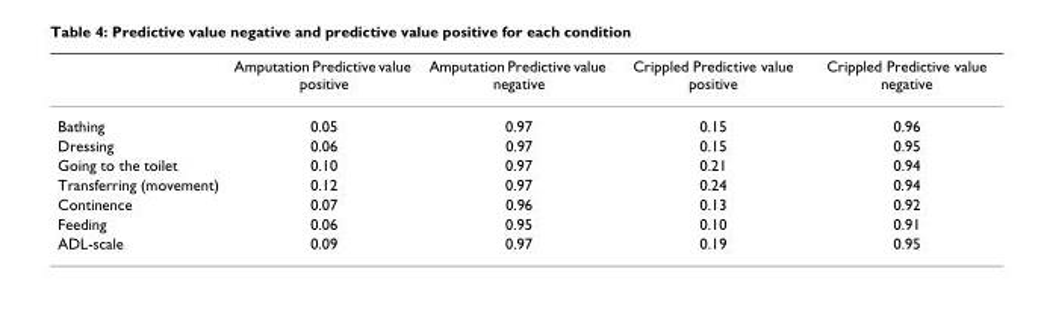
<table><thead><tr><td></td><td>Amputation Predictive value positive</td><td>Amputation Predictive value negative</td><td>Crippled Predictive value positive</td><td>Crippled Predictive value negative</td></tr></thead><tbody><tr><td>Bathing</td><td>0.05</td><td>0.97</td><td>0.15</td><td>0.96</td></tr><tr><td>Dressing</td><td>0.06</td><td>0.97</td><td>0.15</td><td>0.95</td></tr><tr><td>Going to the toilet</td><td>0.10</td><td>0.97</td><td>0.21</td><td>0.94</td></tr><tr><td>Transferring (movement)</td><td>0.12</td><td>0.97</td><td>0.24</td><td>0.94</td></tr><tr><td>Continence</td><td>0.07</td><td>0.96</td><td>0.13</td><td>0.92</td></tr><tr><td>Feeding</td><td>0.06</td><td>0.95</td><td>0.10</td><td>0.91</td></tr><tr><td>ADL-scale</td><td>0.09</td><td>0.97</td><td>0.19</td><td>0.95</td></tr></tbody></table>